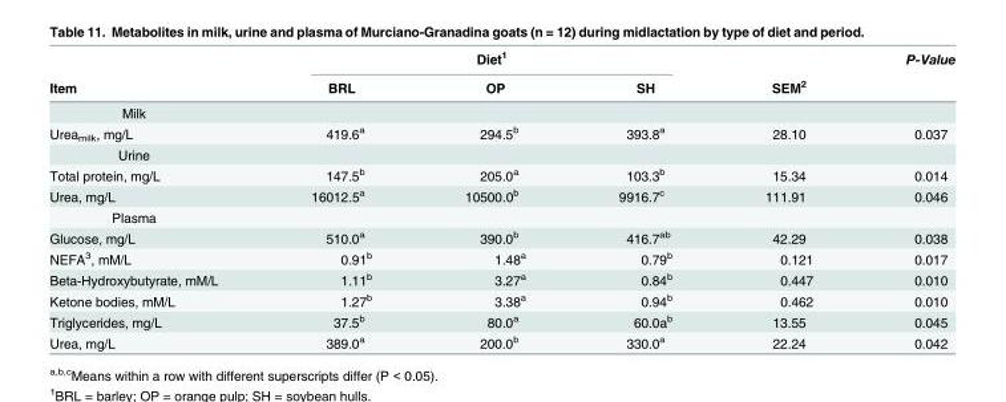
<table><thead><tr><td rowspan="2">Item</td><td colspan="3">Diet<sup>1</sup></td><td rowspan="2">SEM<sup>2</sup></td><td rowspan="2">P-Value</td></tr><tr><td>BRL</td><td>OP</td><td>SH</td></tr></thead><tbody><tr><td colspan="6">Milk</td></tr><tr><td>Urea<sub>milk</sub>, mg/L</td><td>419.6<sup>a</sup></td><td>294.5<sup>b</sup></td><td>393.8<sup>a</sup></td><td>28.10</td><td>0.037</td></tr><tr><td colspan="6">Urine</td></tr><tr><td>Total protein, mg/L</td><td>147.5<sup>b</sup></td><td>205.0<sup>a</sup></td><td>103.3<sup>b</sup></td><td>15.34</td><td>0.014</td></tr><tr><td>Urea, mg/L</td><td>16012.5<sup>a</sup></td><td>10500.0<sup>b</sup></td><td>9916.7<sup>c</sup></td><td>111.91</td><td>0.046</td></tr><tr><td colspan="6">Plasma</td></tr><tr><td>Glucose, mg/L</td><td>510.0<sup>a</sup></td><td>390.0<sup>b</sup></td><td>416.7<sup>ab</sup></td><td>42.29</td><td>0.038</td></tr><tr><td>NEFA<sup>3</sup>, mM/L</td><td>0.91<sup>b</sup></td><td>1.48<sup>a</sup></td><td>0.79<sup>b</sup></td><td>0.121</td><td>0.017</td></tr><tr><td>Beta-Hydroxybutyrate, mM/L</td><td>1.11<sup>b</sup></td><td>3.27<sup>a</sup></td><td>0.84<sup>b</sup></td><td>0.447</td><td>0.010</td></tr><tr><td>Ketone bodies, mM/L</td><td>1.27<sup>b</sup></td><td>3.38<sup>a</sup></td><td>0.94<sup>b</sup></td><td>0.462</td><td>0.010</td></tr><tr><td>Triglycerides, mg/L</td><td>37.5<sup>b</sup></td><td>80.0<sup>a</sup></td><td>60.0a<sup>b</sup></td><td>13.55</td><td>0.045</td></tr><tr><td>Urea, mg/L</td><td>389.0<sup>a</sup></td><td>200.0<sup>b</sup></td><td>330.0<sup>a</sup></td><td>22.24</td><td>0.042</td></tr></tbody></table>